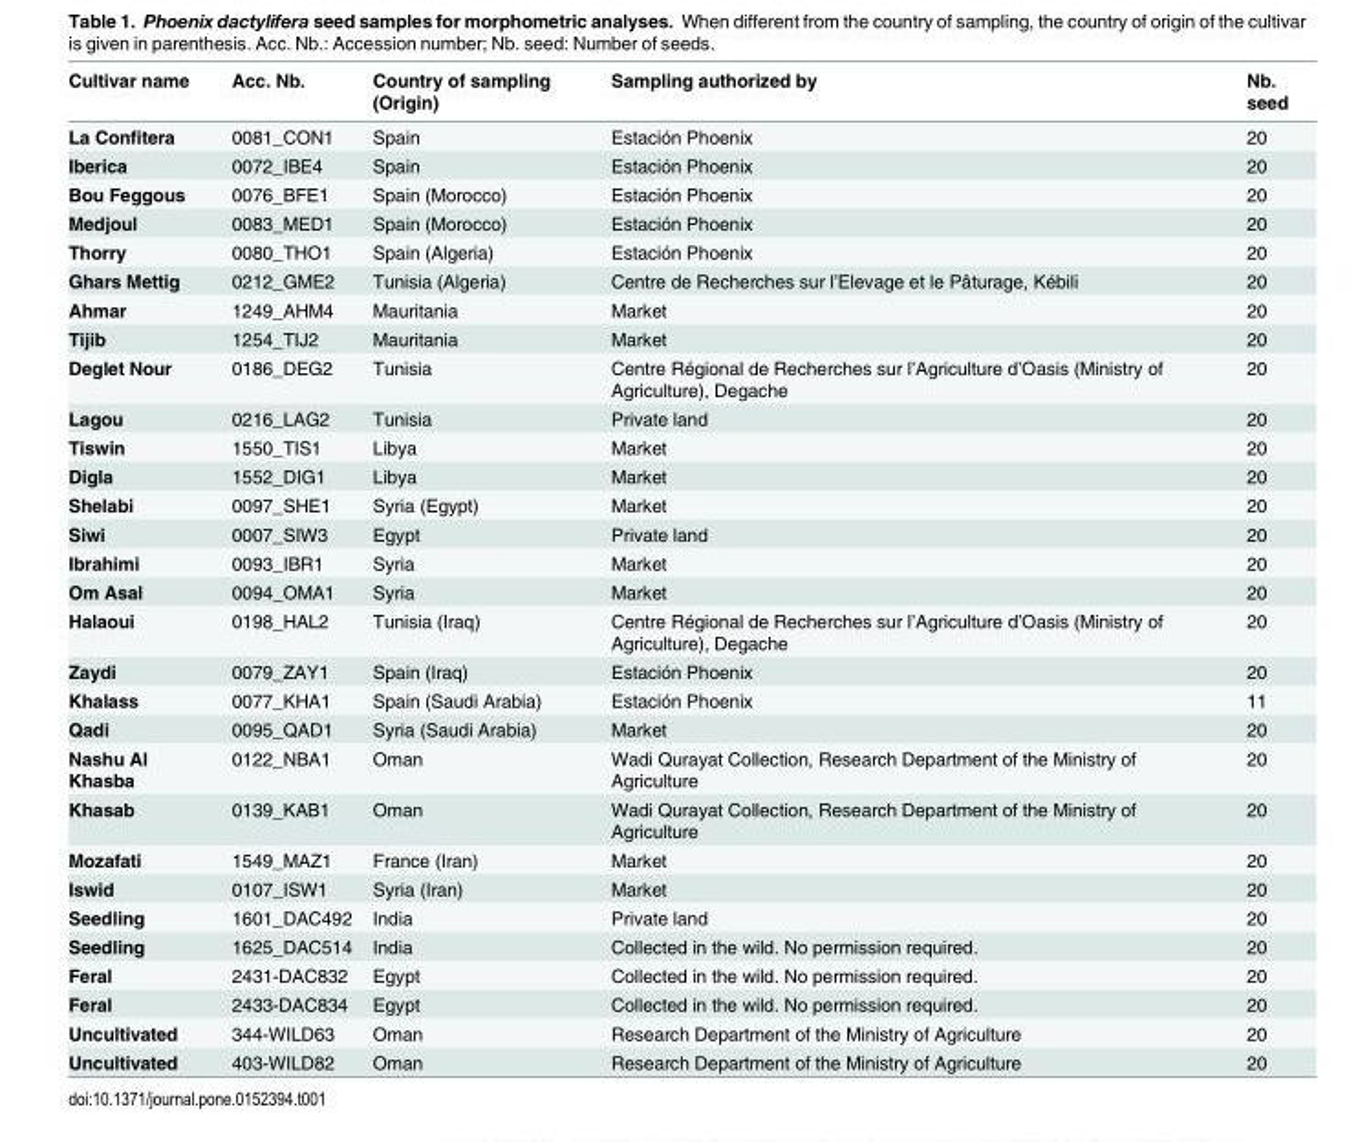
<table><thead><tr><td>Cultivar name</td><td>Acc. Nb.</td><td>Country of sampling (Origin)</td><td>Sampling authorized by</td><td>Nb. seed</td></tr></thead><tbody><tr><td>La Confitera</td><td>0081_CON1</td><td>Spain</td><td>Estación Phoenix</td><td>20</td></tr><tr><td>Iberica</td><td>0072_IBE4</td><td>Spain</td><td>Estación Phoenix</td><td>20</td></tr><tr><td>Bou Feggous</td><td>0076_BFE1</td><td>Spain (Morocco)</td><td>Estación Phoenix</td><td>20</td></tr><tr><td>Medjoul</td><td>0083_MED1</td><td>Spain (Morocco)</td><td>Estación Phoenix</td><td>20</td></tr><tr><td>Thorry</td><td>0080_THO1</td><td>Spain (Algeria)</td><td>Estación Phoenix</td><td>20</td></tr><tr><td>Ghars Mettig</td><td>0212_GME2</td><td>Tunisia (Algeria)</td><td>Centre de Recherches sur l’Elevage et le Pâturage, Kébili</td><td>20</td></tr><tr><td>Ahmar</td><td>1249_AHM4</td><td>Mauritania</td><td>Market</td><td>20</td></tr><tr><td>Tijib</td><td>1254_TIJ2</td><td>Mauritania</td><td>Market</td><td>20</td></tr><tr><td>Deglet Nour</td><td>0186_DEG2</td><td>Tunisia</td><td>Centre Régional de Recherches sur l’Agriculture d’Oasis (Ministry of Agriculture), Degache</td><td>20</td></tr><tr><td>Lagou</td><td>0216_LAG2</td><td>Tunisia</td><td>Private land</td><td>20</td></tr><tr><td>Tiswin</td><td>1550_TIS1</td><td>Libya</td><td>Market</td><td>20</td></tr><tr><td>Digla</td><td>1552_DIG1</td><td>Libya</td><td>Market</td><td>20</td></tr><tr><td>Shelabi</td><td>0097_SHE1</td><td>Syria (Egypt)</td><td>Market</td><td>20</td></tr><tr><td>Siwi</td><td>0007_SIW3</td><td>Egypt</td><td>Private land</td><td>20</td></tr><tr><td>Ibrahimi</td><td>0093_IBR1</td><td>Syria</td><td>Market</td><td>20</td></tr><tr><td>Om Asal</td><td>0094_OMA1</td><td>Syria</td><td>Market</td><td>20</td></tr><tr><td>Halaoui</td><td>0198_HAL2</td><td>Tunisia (Iraq)</td><td>Centre Régional de Recherches sur l’Agriculture d’Oasis (Ministry of Agriculture), Degache</td><td>20</td></tr><tr><td>Zaydi</td><td>0079_ZAY1</td><td>Spain (Iraq)</td><td>Estación Phoenix</td><td>20</td></tr><tr><td>Khalass</td><td>0077_KHA1</td><td>Spain (Saudi Arabia)</td><td>Estación Phoenix</td><td>11</td></tr><tr><td>Qadi</td><td>0095_QAD1</td><td>Syria (Saudi Arabia)</td><td>Market</td><td>20</td></tr><tr><td>Nashu Al Khasba</td><td>0122_NBA1</td><td>Oman</td><td>Wadi Qurayat Collection, Research Department of the Ministry of Agriculture</td><td>20</td></tr><tr><td>Khasab</td><td>0139_KAB1</td><td>Oman</td><td>Wadi Qurayat Collection, Research Department of the Ministry of Agriculture</td><td>20</td></tr><tr><td>Mozafati</td><td>1549_MAZ1</td><td>France (Iran)</td><td>Market</td><td>20</td></tr><tr><td>Iswid</td><td>0107_ISW1</td><td>Syria (Iran)</td><td>Market</td><td>20</td></tr><tr><td>Seedling</td><td>1601_DAC492</td><td>India</td><td>Private land</td><td>20</td></tr><tr><td>Seedling</td><td>1625_DAC514</td><td>India</td><td>Collected in the wild. No permission required.</td><td>20</td></tr><tr><td>Feral</td><td>2431-DAC832</td><td>Egypt</td><td>Collected in the wild. No permission required.</td><td>20</td></tr><tr><td>Feral</td><td>2433-DAC834</td><td>Egypt</td><td>Collected in the wild. No permission required.</td><td>20</td></tr><tr><td>Uncultivated</td><td>344-WILD63</td><td>Oman</td><td>Research Department of the Ministry of Agriculture</td><td>20</td></tr><tr><td>Uncultivated</td><td>403-WILD82</td><td>Oman</td><td>Research Department of the Ministry of Agriculture</td><td>20</td></tr></tbody></table>